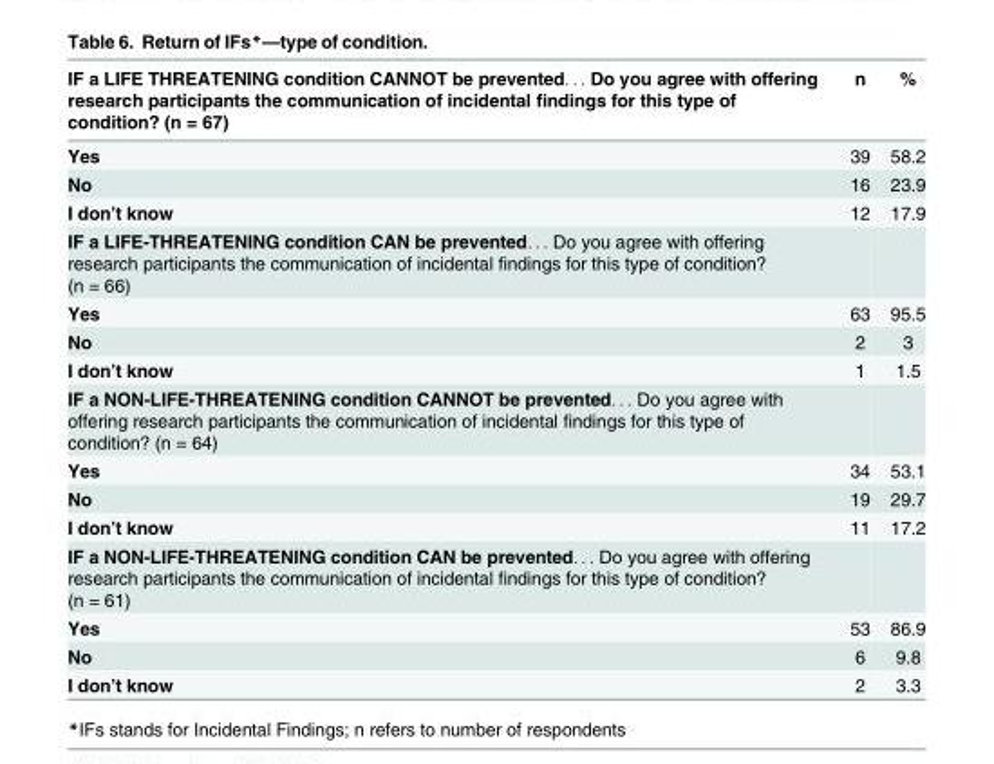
<table><thead><tr><td>IF a LIFE THREATENING condition CANNOT be prevented. . . Do you agree with offering research participants the communication of incidental findings for this type of condition? (n = 67)</td><td>n</td><td>%</td></tr></thead><tbody><tr><td>Yes</td><td>39</td><td>58.2</td></tr><tr><td>No</td><td>16</td><td>23.9</td></tr><tr><td>I don’t know</td><td>12</td><td>17.9</td></tr><tr><td colspan="3">IF a LIFE-THREATENING condition CAN be prevented. . . Do you agree with offering research participants the communication of incidental findings for this type of condition? (n = 66)</td></tr><tr><td>Yes</td><td>63</td><td>95.5</td></tr><tr><td>No</td><td>2</td><td>3</td></tr><tr><td>I don’t know</td><td>1</td><td>1.5</td></tr><tr><td colspan="3">IF a NON-LIFE-THREATENING condition CANNOT be prevented. . . Do you agree with offering research participants the communication of incidental findings for this type of condition? (n = 64)</td></tr><tr><td>Yes</td><td>34</td><td>53.1</td></tr><tr><td>No</td><td>19</td><td>29.7</td></tr><tr><td>I don’t know</td><td>11</td><td>17.2</td></tr><tr><td colspan="3">IF a NON-LIFE-THREATENING condition CAN be prevented. . . Do you agree with offering research participants the communication of incidental findings for this type of condition? (n = 61)</td></tr><tr><td>Yes</td><td>53</td><td>86.9</td></tr><tr><td>No</td><td>6</td><td>9.8</td></tr><tr><td>I don’t know</td><td>2</td><td>3.3</td></tr></tbody></table>